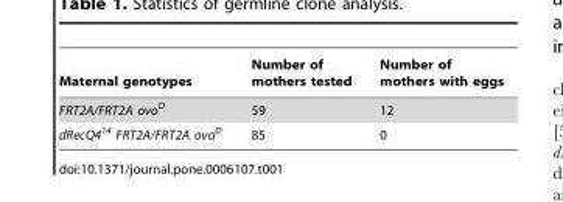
<table><thead><tr><td>Maternal genotypes</td><td>Number of mothers tested</td><td>Number of mothers with eggs</td></tr></thead><tbody><tr><td>FRT2A/FRT2A ovo<sup>D</sup></td><td>59</td><td>12</td></tr><tr><td>dRecQ4<sup>14</sup> FRT2A/FRT2A ovo<sup>D</sup></td><td>85</td><td>0</td></tr></tbody></table>